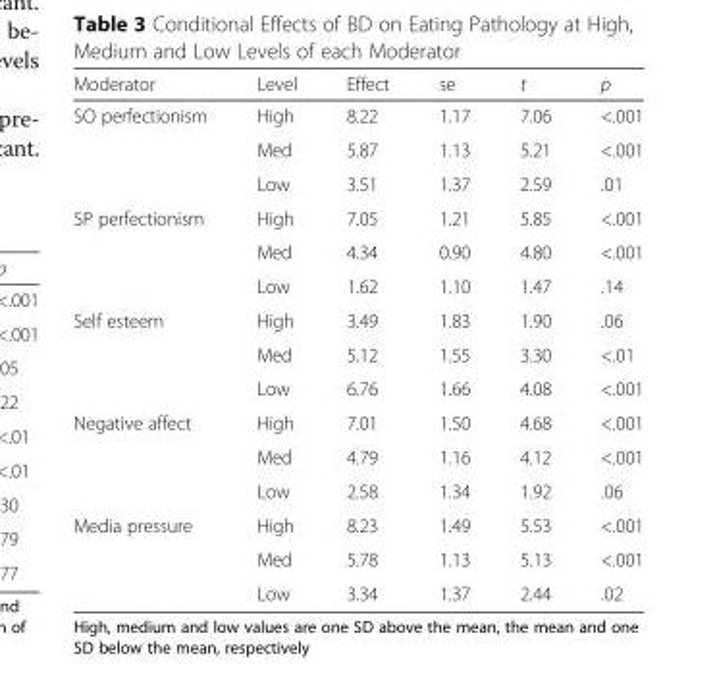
<table><thead><tr><td>Moderator</td><td>Level</td><td>Effect</td><td>se</td><td>t</td><td>p</td></tr></thead><tbody><tr><td rowspan="3">SO perfectionism</td><td>High</td><td>8.22</td><td>1.17</td><td>7.06</td><td>&lt;.001</td></tr><tr><td>Med</td><td>5.87</td><td>1.13</td><td>5.21</td><td>&lt;.001</td></tr><tr><td>Low</td><td>3.51</td><td>1.37</td><td>2.59</td><td>.01</td></tr><tr><td rowspan="3">SP perfectionism</td><td>High</td><td>7.05</td><td>1.21</td><td>5.85</td><td>&lt;.001</td></tr><tr><td>Med</td><td>4.34</td><td>0.90</td><td>4.80</td><td>&lt;.001</td></tr><tr><td>Low</td><td>1.62</td><td>1.10</td><td>1.47</td><td>.14</td></tr><tr><td rowspan="3">Self esteem</td><td>High</td><td>3.49</td><td>1.83</td><td>1.90</td><td>.06</td></tr><tr><td>Med</td><td>5.12</td><td>1.55</td><td>3.30</td><td>&lt;.01</td></tr><tr><td>Low</td><td>6.76</td><td>1.66</td><td>4.08</td><td>&lt;.001</td></tr><tr><td rowspan="3">Negative affect</td><td>High</td><td>7.01</td><td>1.50</td><td>4.68</td><td>&lt;.001</td></tr><tr><td>Med</td><td>4.79</td><td>1.16</td><td>4.12</td><td>&lt;.001</td></tr><tr><td>Low</td><td>2.58</td><td>1.34</td><td>1.92</td><td>.06</td></tr><tr><td rowspan="3">Media pressure</td><td>High</td><td>8.23</td><td>1.49</td><td>5.53</td><td>&lt;.001</td></tr><tr><td>Med</td><td>5.78</td><td>1.13</td><td>5.13</td><td>&lt;.001</td></tr><tr><td>Low</td><td>3.34</td><td>1.37</td><td>2.44</td><td>.02</td></tr></tbody></table>